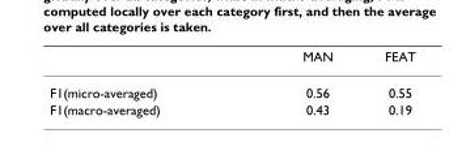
<table><thead><tr><td></td><td>MAN</td><td>FEAT</td></tr></thead><tbody><tr><td>F1(micro-averaged)</td><td>0.56</td><td>0.55</td></tr><tr><td>F1(macro-averaged)</td><td>0.43</td><td>0.19</td></tr></tbody></table>